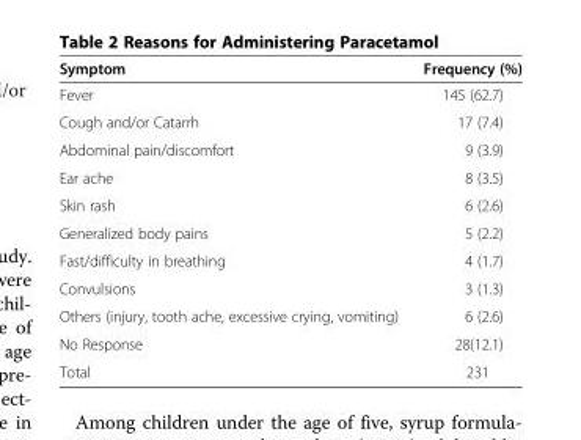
<table><thead><tr><td>Symptom</td><td>Frequency (%)</td></tr></thead><tbody><tr><td>Fever</td><td>145 (62.7)</td></tr><tr><td>Cough and/or Catarrh</td><td>17 (7.4)</td></tr><tr><td>Abdominal pain/discomfort</td><td>9 (3.9)</td></tr><tr><td>Ear ache</td><td>8 (3.5)</td></tr><tr><td>Skin rash</td><td>6 (2.6)</td></tr><tr><td>Generalized body pains</td><td>5 (2.2)</td></tr><tr><td>Fast/difficulty in breathing</td><td>4 (1.7)</td></tr><tr><td>Convulsions</td><td>3 (1.3)</td></tr><tr><td>Others (injury, tooth ache, excessive crying, vomiting)</td><td>6 (2.6)</td></tr><tr><td>No Response</td><td>28(12.1)</td></tr><tr><td>Total</td><td>231</td></tr></tbody></table>